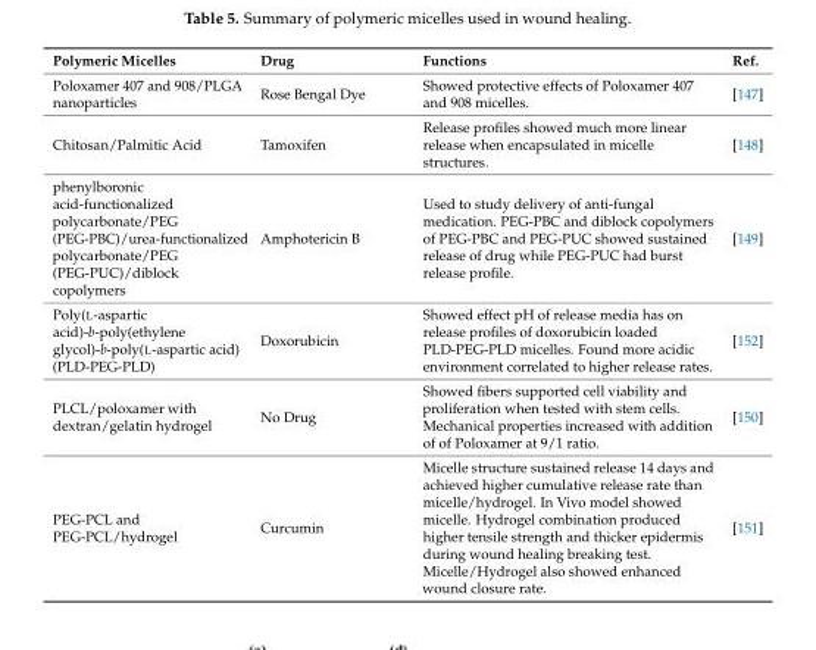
<table><thead><tr><td>Polymeric Micelles</td><td>Drug</td><td>Functions</td><td>Ref.</td></tr></thead><tbody><tr><td>Poloxamer 407 and 908/PLGA nanoparticles</td><td>Rose Bengal Dye</td><td>Showed protective effects of Poloxamer 407 and 908 micelles.</td><td>[147]</td></tr><tr><td>Chitosan/Palmitic Acid</td><td>Tamoxifen</td><td>Release profiles showed much more linear release when encapsulated in micelle structures.</td><td>[148]</td></tr><tr><td>phenylboronic acid-functionalized polycarbonate/PEG (PEG-PBC)/urea-functionalized polycarbonate/PEG (PEG-PUC)/diblock copolymers</td><td>Amphotericin B</td><td>Used to study delivery of anti-fungal medication. PEG-PBC and diblock copolymers of PEG-PBC and PEG-PUC showed sustained release of drug while PEG-PUC had burst release profile.</td><td>[149]</td></tr><tr><td>Poly(L-aspartic acid)-b-poly(ethylene glycol)-b-poly(L-aspartic acid) (PLD-PEG-PLD)</td><td>Doxorubicin</td><td>Showed effect pH of release media has on release profiles of doxorubicin loaded PLD-PEG-PLD micelles. Found more acidic environment correlated to higher release rates.</td><td>[152]</td></tr><tr><td>PLCL/poloxamer with dextran/gelatin hydrogel</td><td>No Drug</td><td>Showed fibers supported cell viability and proliferation when tested with stem cells. Mechanical properties increased with addition of of Poloxamer at 9/1 ratio.</td><td>[150]</td></tr><tr><td>PEG-PCL and PEG-PCL/hydrogel</td><td>Curcumin</td><td>Micelle structure sustained release 14 days and achieved higher cumulative release rate than micelle/hydrogel. In Vivo model showed micelle. Hydrogel combination produced higher tensile strength and thicker epidermis during wound healing breaking test. Micelle/Hydrogel also showed enhanced wound closure rate.</td><td>[151]</td></tr></tbody></table>